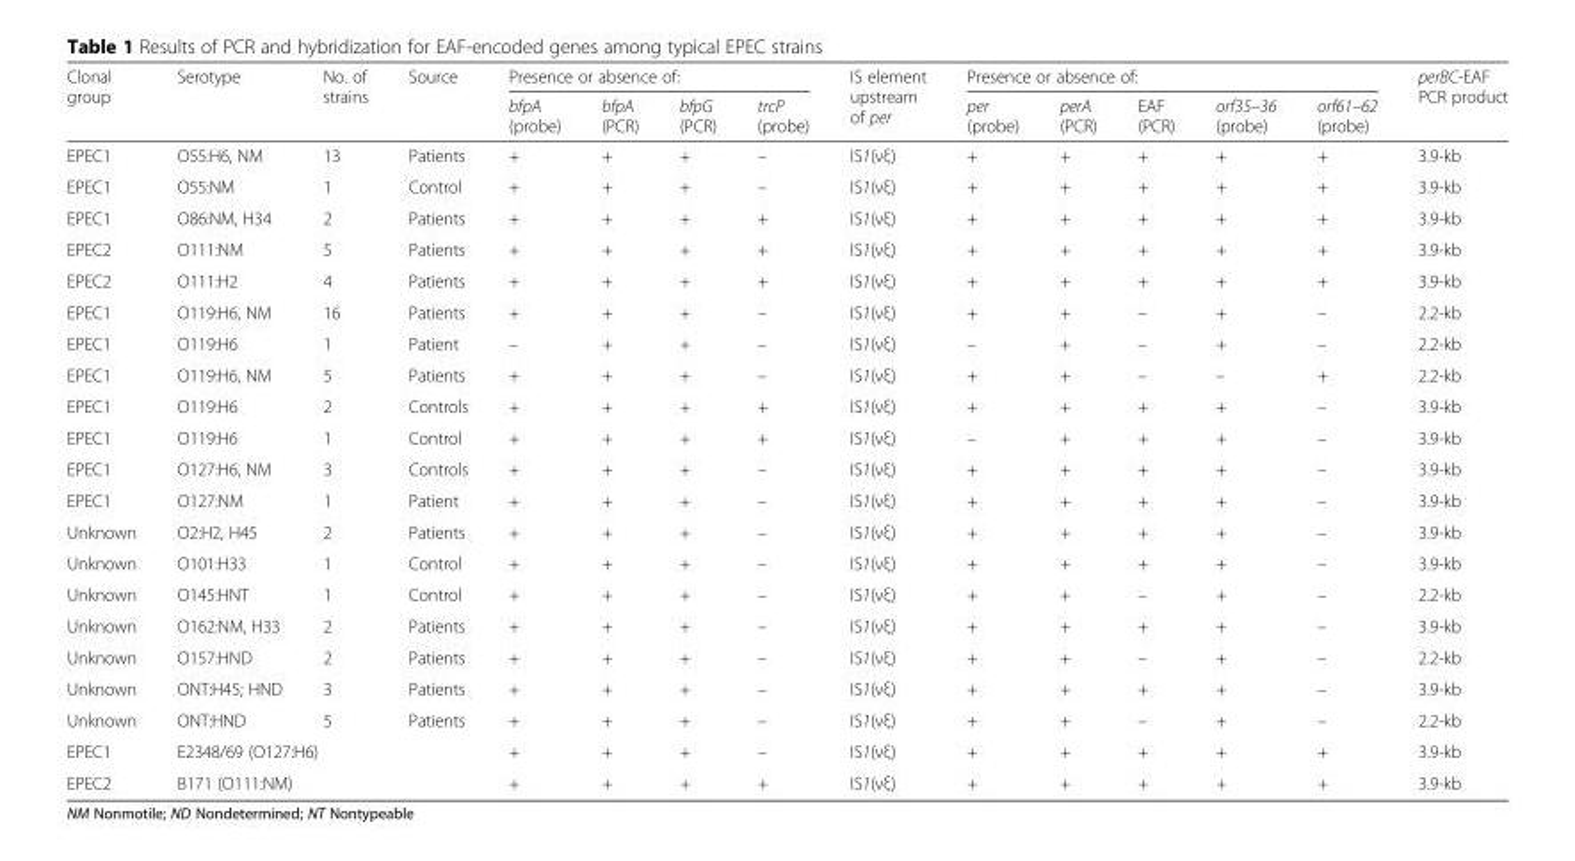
<table><thead><tr><td rowspan="2">Clonal group</td><td rowspan="2">Serotype</td><td rowspan="2">No. of strains</td><td rowspan="2">Source</td><td colspan="4">Presence or absence of:</td><td rowspan="2">IS element upstream of per</td><td colspan="5">Presence or absence of:</td><td rowspan="2">perBC-EAF PCR product</td></tr><tr><td>bfpA (probe)</td><td>bfpA (PCR)</td><td>bfpG (PCR)</td><td>trcP (probe)</td><td>per (probe)</td><td>perA (PCR)</td><td>EAF (PCR)</td><td>orf35–36 (probe)</td><td>orf61–62 (probe)</td></tr></thead><tbody><tr><td>EPEC1</td><td>O55:H6, NM</td><td>13</td><td>Patients</td><td>+</td><td>+</td><td>+</td><td>–</td><td>IS1(νξ)</td><td>+</td><td>+</td><td>+</td><td>+</td><td>+</td><td>3.9-kb</td></tr><tr><td>EPEC1</td><td>O55:NM</td><td>1</td><td>Control</td><td>+</td><td>+</td><td>+</td><td>–</td><td>IS1(νξ)</td><td>+</td><td>+</td><td>+</td><td>+</td><td>+</td><td>3.9-kb</td></tr><tr><td>EPEC1</td><td>O86:NM, H34</td><td>2</td><td>Patients</td><td>+</td><td>+</td><td>+</td><td>+</td><td>IS1(νξ)</td><td>+</td><td>+</td><td>+</td><td>+</td><td>+</td><td>3.9-kb</td></tr><tr><td>EPEC2</td><td>O111:NM</td><td>5</td><td>Patients</td><td>+</td><td>+</td><td>+</td><td>+</td><td>IS1(νξ)</td><td>+</td><td>+</td><td>+</td><td>+</td><td>+</td><td>3.9-kb</td></tr><tr><td>EPEC2</td><td>O111:H2</td><td>4</td><td>Patients</td><td>+</td><td>+</td><td>+</td><td>+</td><td>IS1(νξ)</td><td>+</td><td>+</td><td>+</td><td>+</td><td>+</td><td>3.9-kb</td></tr><tr><td>EPEC1</td><td>O119:H6, NM</td><td>16</td><td>Patients</td><td>+</td><td>+</td><td>+</td><td>–</td><td>IS1(νξ)</td><td>+</td><td>+</td><td>–</td><td>+</td><td>–</td><td>2.2-kb</td></tr><tr><td>EPEC1</td><td>O119:H6</td><td>1</td><td>Patient</td><td>–</td><td>+</td><td>+</td><td>–</td><td>IS1(νξ)</td><td>–</td><td>+</td><td>–</td><td>+</td><td>–</td><td>2.2-kb</td></tr><tr><td>EPEC1</td><td>O119:H6, NM</td><td>5</td><td>Patients</td><td>+</td><td>+</td><td>+</td><td>–</td><td>IS1(νξ)</td><td>+</td><td>+</td><td>–</td><td>–</td><td>+</td><td>2.2-kb</td></tr><tr><td>EPEC1</td><td>O119:H6</td><td>2</td><td>Controls</td><td>+</td><td>+</td><td>+</td><td>+</td><td>IS1(νξ)</td><td>+</td><td>+</td><td>+</td><td>+</td><td>–</td><td>3.9-kb</td></tr><tr><td>EPEC1</td><td>O119:H6</td><td>1</td><td>Control</td><td>+</td><td>+</td><td>+</td><td>+</td><td>IS1(νξ)</td><td>–</td><td>+</td><td>+</td><td>+</td><td>–</td><td>3.9-kb</td></tr><tr><td>EPEC1</td><td>O127:H6, NM</td><td>3</td><td>Controls</td><td>+</td><td>+</td><td>+</td><td>–</td><td>IS1(νξ)</td><td>+</td><td>+</td><td>+</td><td>+</td><td>–</td><td>3.9-kb</td></tr><tr><td>EPEC1</td><td>O127:NM</td><td>1</td><td>Patient</td><td>+</td><td>+</td><td>+</td><td>–</td><td>IS1(νξ)</td><td>+</td><td>+</td><td>+</td><td>+</td><td>–</td><td>3.9-kb</td></tr><tr><td>Unknown</td><td>O2:H2, H45</td><td>2</td><td>Patients</td><td>+</td><td>+</td><td>+</td><td>–</td><td>IS1(νξ)</td><td>+</td><td>+</td><td>+</td><td>+</td><td>–</td><td>3.9-kb</td></tr><tr><td>Unknown</td><td>O101:H33</td><td>1</td><td>Control</td><td>+</td><td>+</td><td>+</td><td>–</td><td>IS1(νξ)</td><td>+</td><td>+</td><td>+</td><td>+</td><td>–</td><td>3.9-kb</td></tr><tr><td>Unknown</td><td>O145:HNT</td><td>1</td><td>Control</td><td>+</td><td>+</td><td>+</td><td>–</td><td>IS1(νξ)</td><td>+</td><td>+</td><td>–</td><td>+</td><td>–</td><td>2.2-kb</td></tr><tr><td>Unknown</td><td>O162:NM, H33</td><td>2</td><td>Patients</td><td>+</td><td>+</td><td>+</td><td>–</td><td>IS1(νξ)</td><td>+</td><td>+</td><td>+</td><td>+</td><td>–</td><td>3.9-kb</td></tr><tr><td>Unknown</td><td>O157:HND</td><td>2</td><td>Patients</td><td>+</td><td>+</td><td>+</td><td>–</td><td>IS1(νξ)</td><td>+</td><td>+</td><td>–</td><td>+</td><td>–</td><td>2.2-kb</td></tr><tr><td>Unknown</td><td>ONT:H45; HND</td><td>3</td><td>Patients</td><td>+</td><td>+</td><td>+</td><td>–</td><td>IS1(νξ)</td><td>+</td><td>+</td><td>+</td><td>+</td><td>–</td><td>3.9-kb</td></tr><tr><td>Unknown</td><td>ONT:HND</td><td>5</td><td>Patients</td><td>+</td><td>+</td><td>+</td><td>–</td><td>IS1(νξ)</td><td>+</td><td>+</td><td>–</td><td>+</td><td>–</td><td>2.2-kb</td></tr><tr><td>EPEC1</td><td colspan="3">E2348/69 (O127:H6)</td><td>+</td><td>+</td><td>+</td><td>–</td><td>IS1(νξ)</td><td>+</td><td>+</td><td>+</td><td>+</td><td>+</td><td>3.9-kb</td></tr><tr><td>EPEC2</td><td colspan="3">B171 (O111:NM)</td><td>+</td><td>+</td><td>+</td><td>+</td><td>IS1(νξ)</td><td>+</td><td>+</td><td>+</td><td>+</td><td>+</td><td>3.9-kb</td></tr></tbody></table>